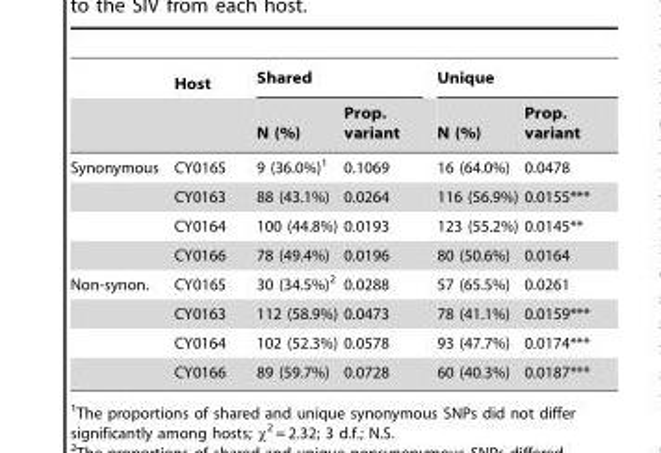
<table><thead><tr><td rowspan="2"></td><td rowspan="2">Host</td><td colspan="2">Shared</td><td colspan="2">Unique</td></tr><tr><td>N (%)</td><td>Prop. variant</td><td>N (%)</td><td>Prop. variant</td></tr></thead><tbody><tr><td rowspan="4">Synonymous</td><td>CY0165</td><td>9 (36.0%)<sup>1</sup></td><td>0.1069</td><td>16 (64.0%)</td><td>0.0478</td></tr><tr><td>CY0163</td><td>88 (43.1%)</td><td>0.0264</td><td>116 (56.9%)</td><td>0.0155***</td></tr><tr><td>CY0164</td><td>100 (44.8%)</td><td>0.0193</td><td>123 (55.2%)</td><td>0.0145**</td></tr><tr><td>CY0166</td><td>78 (49.4%)</td><td>0.0196</td><td>80 (50.6%)</td><td>0.0164</td></tr><tr><td rowspan="4">Non-synon.</td><td>CY0165</td><td>30 (34.5%)<sup>2</sup></td><td>0.0288</td><td>57 (65.5%)</td><td>0.0261</td></tr><tr><td>CY0163</td><td>112 (58.9%)</td><td>0.0473</td><td>78 (41.1%)</td><td>0.0159***</td></tr><tr><td>CY0164</td><td>102 (52.3%)</td><td>0.0578</td><td>93 (47.7%)</td><td>0.0174***</td></tr><tr><td>CY0166</td><td>89 (59.7%)</td><td>0.0728</td><td>60 (40.3%)</td><td>0.0187***</td></tr></tbody></table>